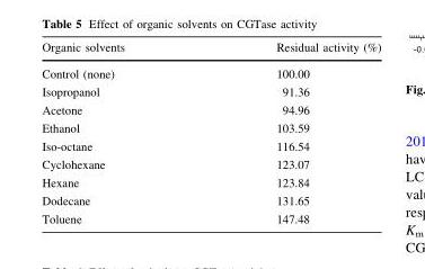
<table><thead><tr><td>Organic solvents</td><td>Residual activity (%)</td></tr></thead><tbody><tr><td>Control (none)</td><td>100.00</td></tr><tr><td>Isopropanol</td><td>91.36</td></tr><tr><td>Acetone</td><td>94.96</td></tr><tr><td>Ethanol</td><td>103.59</td></tr><tr><td>Iso-octane</td><td>116.54</td></tr><tr><td>Cyclohexane</td><td>123.07</td></tr><tr><td>Hexane</td><td>123.84</td></tr><tr><td>Dodecane</td><td>131.65</td></tr><tr><td>Toluene</td><td>147.48</td></tr></tbody></table>